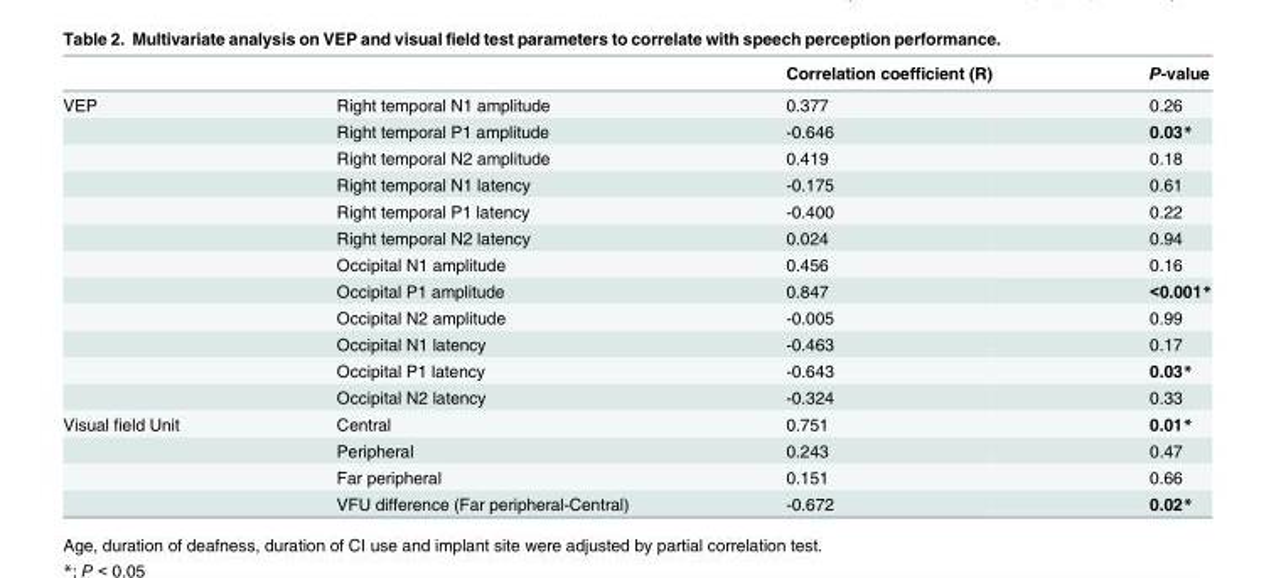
<table><thead><tr><td></td><td></td><td>Correlation coefficient (R)</td><td>P-value</td></tr></thead><tbody><tr><td rowspan="12">VEP</td><td>Right temporal N1 amplitude</td><td>0.377</td><td>0.26</td></tr><tr><td>Right temporal P1 amplitude</td><td>-0.646</td><td>0.03*</td></tr><tr><td>Right temporal N2 amplitude</td><td>0.419</td><td>0.18</td></tr><tr><td>Right temporal N1 latency</td><td>-0.175</td><td>0.61</td></tr><tr><td>Right temporal P1 latency</td><td>-0.400</td><td>0.22</td></tr><tr><td>Right temporal N2 latency</td><td>0.024</td><td>0.94</td></tr><tr><td>Occipital N1 amplitude</td><td>0.456</td><td>0.16</td></tr><tr><td>Occipital P1 amplitude</td><td>0.847</td><td>&lt;0.001*</td></tr><tr><td>Occipital N2 amplitude</td><td>-0.005</td><td>0.99</td></tr><tr><td>Occipital N1 latency</td><td>-0.463</td><td>0.17</td></tr><tr><td>Occipital P1 latency</td><td>-0.643</td><td>0.03*</td></tr><tr><td>Occipital N2 latency</td><td>-0.324</td><td>0.33</td></tr><tr><td rowspan="4">Visual field Unit</td><td>Central</td><td>0.751</td><td>0.01*</td></tr><tr><td>Peripheral</td><td>0.243</td><td>0.47</td></tr><tr><td>Far peripheral</td><td>0.151</td><td>0.66</td></tr><tr><td>VFU difference (Far peripheral-Central)</td><td>-0.672</td><td>0.02*</td></tr></tbody></table>